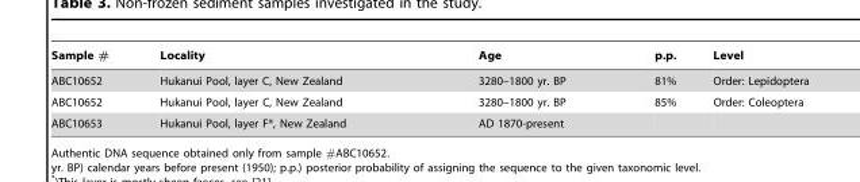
<table><thead><tr><td>Sample #</td><td>Locality</td><td>Age</td><td>p.p.</td><td>Level</td></tr></thead><tbody><tr><td>ABC10652</td><td>Hukanui Pool, layer C, New Zealand</td><td>3280–1800 yr. BP</td><td>81%</td><td>Order: Lepidoptera</td></tr><tr><td>ABC10652</td><td>Hukanui Pool, layer C, New Zealand</td><td>3280–1800 yr. BP</td><td>85%</td><td>Order: Coleoptera</td></tr><tr><td>ABC10653</td><td>Hukanui Pool, layer F*, New Zealand</td><td>AD 1870-present</td><td></td><td></td></tr></tbody></table>